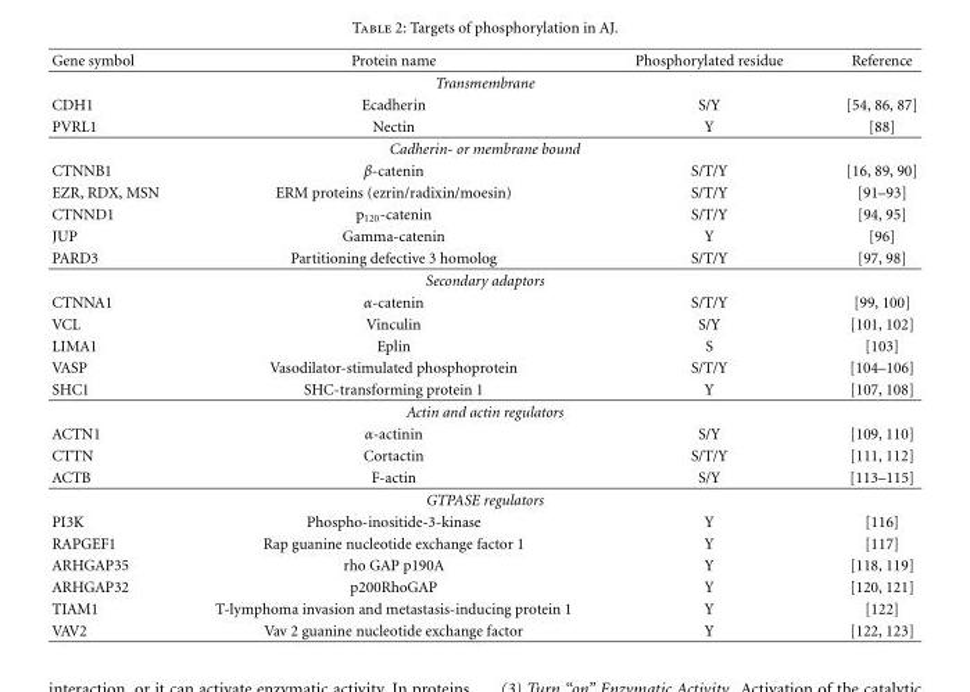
<table><thead><tr><td>Gene symbol</td><td>Protein name</td><td>Phosphorylated residue</td><td>Reference</td></tr></thead><tbody><tr><td colspan="4">Transmembrane</td></tr><tr><td>CDH1</td><td>Ecadherin</td><td>S/Y</td><td>[54, 86, 87]</td></tr><tr><td>PVRL1</td><td>Nectin</td><td>Y</td><td>[88]</td></tr><tr><td colspan="4">Cadherin- or membrane bound</td></tr><tr><td>CTNNB1</td><td>β-catenin</td><td>S/T/Y</td><td>[16, 89, 90]</td></tr><tr><td>EZR, RDX, MSN</td><td>ERM proteins (ezrin/radixin/moesin)</td><td>S/T/Y</td><td>[91–93]</td></tr><tr><td>CTNND1</td><td>p<sub>120</sub>-catenin</td><td>S/T/Y</td><td>[94, 95]</td></tr><tr><td>JUP</td><td>Gamma-catenin</td><td>Y</td><td>[96]</td></tr><tr><td>PARD3</td><td>Partitioning defective 3 homolog</td><td>S/T/Y</td><td>[97, 98]</td></tr><tr><td colspan="4">Secondary adaptors</td></tr><tr><td>CTNNA1</td><td>α-catenin</td><td>S/T/Y</td><td>[99, 100]</td></tr><tr><td>VCL</td><td>Vinculin</td><td>S/Y</td><td>[101, 102]</td></tr><tr><td>LIMA1</td><td>Eplin</td><td>S</td><td>[103]</td></tr><tr><td>VASP</td><td>Vasodilator-stimulated phosphoprotein</td><td>S/T/Y</td><td>[104–106]</td></tr><tr><td>SHC1</td><td>SHC-transforming protein 1</td><td>Y</td><td>[107, 108]</td></tr><tr><td colspan="4">Actin and actin regulators</td></tr><tr><td>ACTN1</td><td>α-actinin</td><td>S/Y</td><td>[109, 110]</td></tr><tr><td>CTTN</td><td>Cortactin</td><td>S/T/Y</td><td>[111, 112]</td></tr><tr><td>ACTB</td><td>F-actin</td><td>S/Y</td><td>[113–115]</td></tr><tr><td colspan="4">GTPASE regulators</td></tr><tr><td>PI3K</td><td>Phospho-inositide-3-kinase</td><td>Y</td><td>[116]</td></tr><tr><td>RAPGEF1</td><td>Rap guanine nucleotide exchange factor 1</td><td>Y</td><td>[117]</td></tr><tr><td>ARHGAP35</td><td>rho GAP p190A</td><td>Y</td><td>[118, 119]</td></tr><tr><td>ARHGAP32</td><td>p200RhoGAP</td><td>Y</td><td>[120, 121]</td></tr><tr><td>TIAM1</td><td>T-lymphoma invasion and metastasis-inducing protein 1</td><td>Y</td><td>[122]</td></tr><tr><td>VAV2</td><td>Vav 2 guanine nucleotide exchange factor</td><td>Y</td><td>[122, 123]</td></tr></tbody></table>